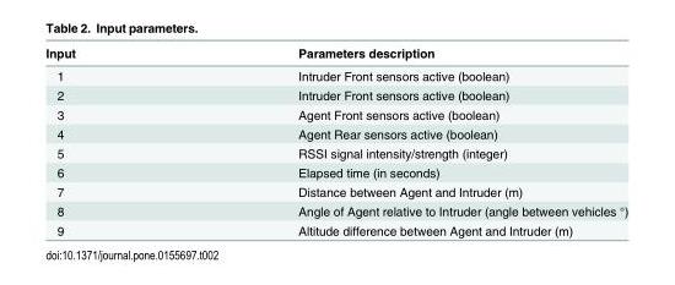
<table><thead><tr><td>Input</td><td>Parameters description</td></tr></thead><tbody><tr><td>1</td><td>Intruder Front sensors active (boolean)</td></tr><tr><td>2</td><td>Intruder Front sensors active (boolean)</td></tr><tr><td>3</td><td>Agent Front sensors active (boolean)</td></tr><tr><td>4</td><td>Agent Rear sensors active (boolean)</td></tr><tr><td>5</td><td>RSSI signal intensity/strength (integer)</td></tr><tr><td>6</td><td>Elapsed time (in seconds)</td></tr><tr><td>7</td><td>Distance between Agent and Intruder (m)</td></tr><tr><td>8</td><td>Angle of Agent relative to Intruder (angle between vehicles °)</td></tr><tr><td>9</td><td>Altitude difference between Agent and Intruder (m)</td></tr></tbody></table>